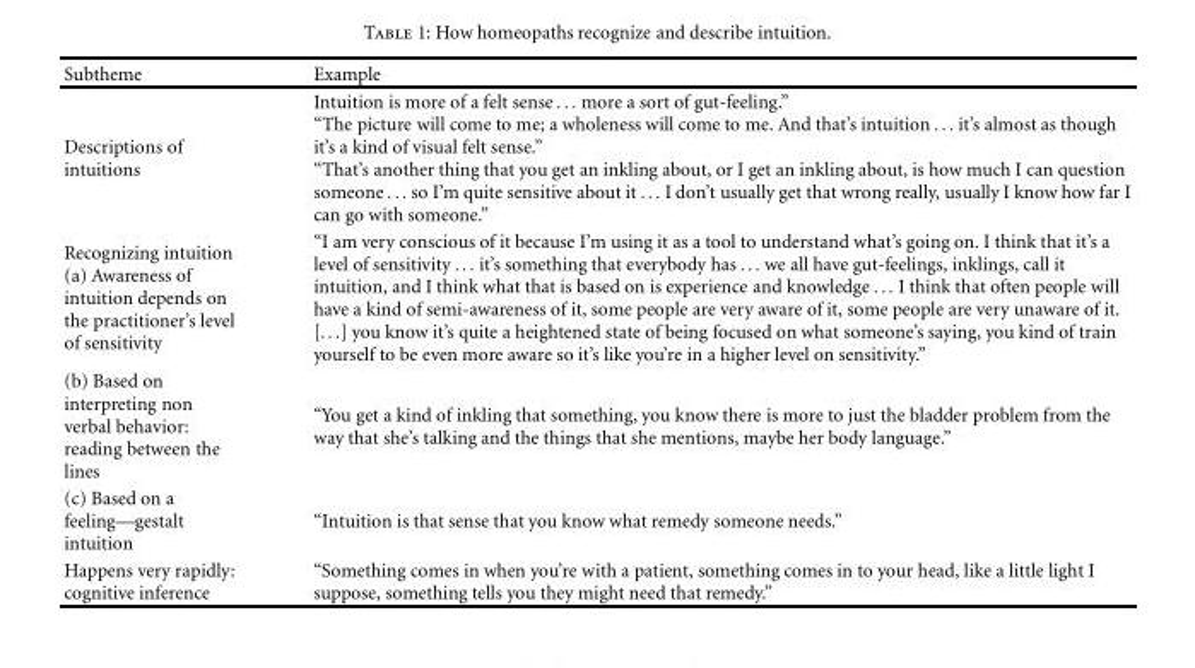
<table><thead><tr><td>Subtheme</td><td>Example</td></tr></thead><tbody><tr><td>Descriptions of intuitions</td><td>Intuition is more of a felt sense . . . more a sort of gut-feeling.” “The picture will come to me; a wholeness will come to me. And that’s intuition . . . it’s almost as though it’s a kind of visual felt sense.” “That’s another thing that you get an inkling about, or I get an inkling about, is how much I can question someone . . . so I’m quite sensitive about it . . . I don’t usually get that wrong really, usually I know how far I can go with someone.”</td></tr><tr><td>Recognizing intuition (a) Awareness of intuition depends on the practitioner’s level of sensitivity</td><td>“I am very conscious of it because I’m using it as a tool to understand what’s going on. I think that it’s a level of sensitivity . . . it’s something that everybody has . . . we all have gut-feelings, inklings, call it intuition, and I think what that is based on is experience and knowledge . . . I think that often people will have a kind of semi-awareness of it, some people are very aware of it, some people are very unaware of it. [. . .] you know it’s quite a heightened state of being focused on what someone’s saying, you kind of train yourself to be even more aware so it’s like you’re in a higher level on sensitivity.”</td></tr><tr><td>(b) Based on interpreting non verbal behavior: reading between the lines</td><td>“You get a kind of inkling that something, you know there is more to just the bladder problem from the way that she’s talking and the things that she mentions, maybe her body language.”</td></tr><tr><td>(c) Based on a feeling—gestalt intuition</td><td>“Intuition is that sense that you know what remedy someone needs.”</td></tr><tr><td>Happens very rapidly: cognitive inference</td><td>“Something comes in when you’re with a patient, something comes in to your head, like a little light I suppose, something tells you they might need that remedy.”</td></tr></tbody></table>